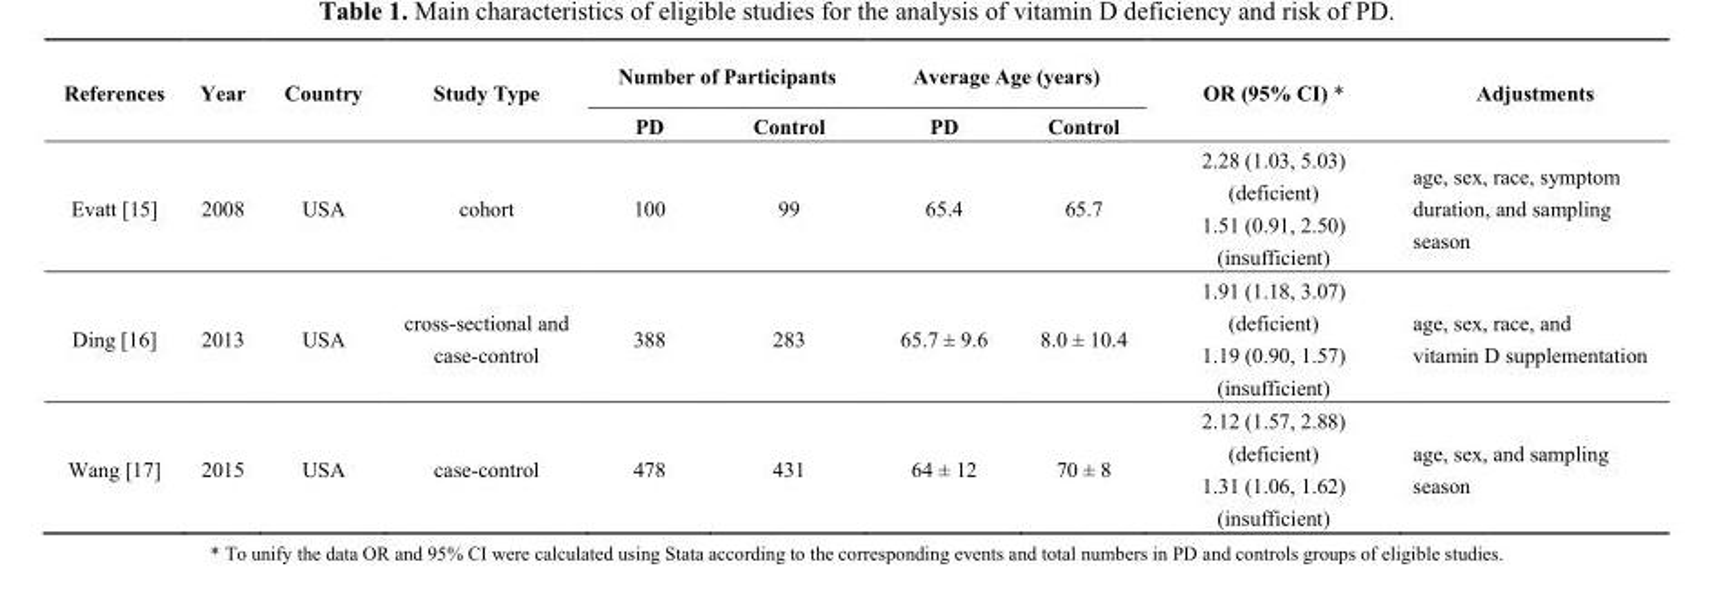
<table><thead><tr><td rowspan="2">References</td><td rowspan="2">Year</td><td rowspan="2">Country</td><td rowspan="2">Study Type</td><td colspan="2">Number of Participants</td><td colspan="2">Average Age (years)</td><td rowspan="2">OR (95% CI) *</td><td rowspan="2">Adjustments</td></tr><tr><td>PD</td><td>Control</td><td>PD</td><td>Control</td></tr></thead><tbody><tr><td>Evatt [15]</td><td>2008</td><td>USA</td><td>cohort</td><td>100</td><td>99</td><td>65.4</td><td>65.7</td><td>2.28 (1.03, 5.03) (deficient) 1.51 (0.91, 2.50) (insufficient)</td><td>age, sex, race, symptom duration, and sampling season</td></tr><tr><td>Ding [16]</td><td>2013</td><td>USA</td><td>cross-sectional and case-control</td><td>388</td><td>283</td><td>65.7 ± 9.6</td><td>8.0 ± 10.4</td><td>1.91 (1.18, 3.07) (deficient) 1.19 (0.90, 1.57) (insufficient)</td><td>age, sex, race, and vitamin D supplementation</td></tr><tr><td>Wang [17]</td><td>2015</td><td>USA</td><td>case-control</td><td>478</td><td>431</td><td>64 ± 12</td><td>70 ± 8</td><td>2.12 (1.57, 2.88) (deficient) 1.31 (1.06, 1.62) (insufficient)</td><td>age, sex, and sampling season</td></tr></tbody></table>